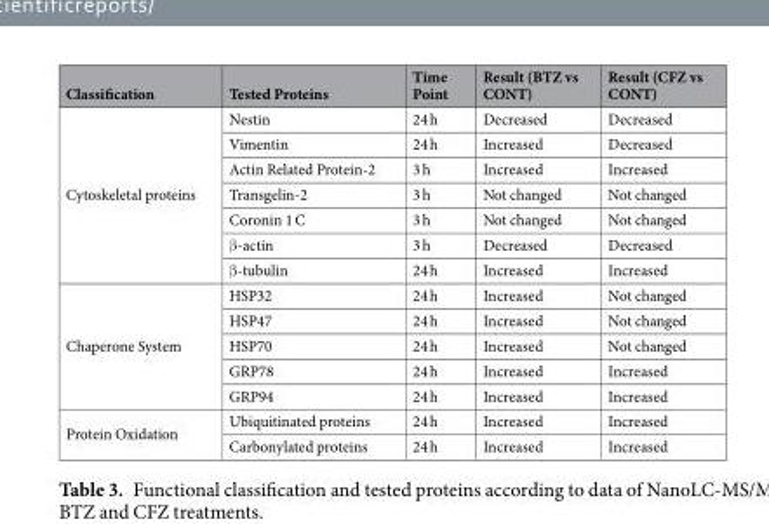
<table><thead><tr><td>Classification</td><td>Tested Proteins</td><td>Time Point</td><td>Result (BTZ vs CONT)</td><td>Result (CFZ vs CONT)</td></tr></thead><tbody><tr><td rowspan="7">Cytoskeletal proteins</td><td>Nestin</td><td>24 h</td><td>Decreased</td><td>Decreased</td></tr><tr><td>Vimentin</td><td>24 h</td><td>Increased</td><td>Decreased</td></tr><tr><td>Actin Related Protein-2</td><td>3 h</td><td>Increased</td><td>Increased</td></tr><tr><td>Transgelin-2</td><td>3 h</td><td>Not changed</td><td>Not changed</td></tr><tr><td>Coronin 1 C</td><td>3 h</td><td>Not changed</td><td>Not changed</td></tr><tr><td>β-actin</td><td>3 h</td><td>Decreased</td><td>Decreased</td></tr><tr><td>β-tubulin</td><td>24 h</td><td>Increased</td><td>Increased</td></tr><tr><td rowspan="5">Chaperone System</td><td>HSP32</td><td>24 h</td><td>Increased</td><td>Not changed</td></tr><tr><td>HSP47</td><td>24 h</td><td>Increased</td><td>Not changed</td></tr><tr><td>HSP70</td><td>24 h</td><td>Increased</td><td>Not changed</td></tr><tr><td>GRP78</td><td>24 h</td><td>Increased</td><td>Increased</td></tr><tr><td>GRP94</td><td>24 h</td><td>Increased</td><td>Increased</td></tr><tr><td rowspan="2">Protein Oxidation</td><td>Ubiquitinated proteins</td><td>24 h</td><td>Increased</td><td>Increased</td></tr><tr><td>Carbonylated proteins</td><td>24 h</td><td>Increased</td><td>Increased</td></tr></tbody></table>